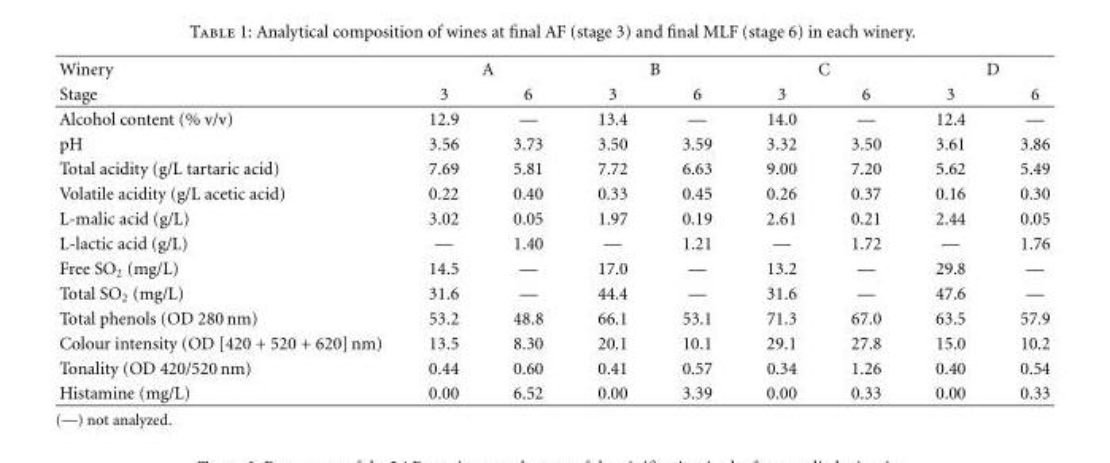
<table><thead><tr><td rowspan="2">Winery Stage</td><td colspan="2">A</td><td colspan="2">B</td><td colspan="2">C</td><td colspan="2">D</td></tr><tr><td>3</td><td>6</td><td>3</td><td>6</td><td>3</td><td>6</td><td>3</td><td>6</td></tr></thead><tbody><tr><td>Alcohol content (% v/v)</td><td>12.9</td><td>—</td><td>13.4</td><td>—</td><td>14.0</td><td>—</td><td>12.4</td><td>—</td></tr><tr><td>pH</td><td>3.56</td><td>3.73</td><td>3.50</td><td>3.59</td><td>3.32</td><td>3.50</td><td>3.61</td><td>3.86</td></tr><tr><td>Total acidity (g/L tartaric acid)</td><td>7.69</td><td>5.81</td><td>7.72</td><td>6.63</td><td>9.00</td><td>7.20</td><td>5.62</td><td>5.49</td></tr><tr><td>Volatile acidity (g/L acetic acid)</td><td>0.22</td><td>0.40</td><td>0.33</td><td>0.45</td><td>0.26</td><td>0.37</td><td>0.16</td><td>0.30</td></tr><tr><td>L-malic acid (g/L)</td><td>3.02</td><td>0.05</td><td>1.97</td><td>0.19</td><td>2.61</td><td>0.21</td><td>2.44</td><td>0.05</td></tr><tr><td>L-lactic acid (g/L)</td><td>—</td><td>1.40</td><td>—</td><td>1.21</td><td>—</td><td>1.72</td><td>—</td><td>1.76</td></tr><tr><td>Free SO<sub>2</sub> (mg/L)</td><td>14.5</td><td>—</td><td>17.0</td><td>—</td><td>13.2</td><td>—</td><td>29.8</td><td>—</td></tr><tr><td>Total SO<sub>2</sub> (mg/L)</td><td>31.6</td><td>—</td><td>44.4</td><td>—</td><td>31.6</td><td>—</td><td>47.6</td><td>—</td></tr><tr><td>Total phenols (OD 280 nm)</td><td>53.2</td><td>48.8</td><td>66.1</td><td>53.1</td><td>71.3</td><td>67.0</td><td>63.5</td><td>57.9</td></tr><tr><td>Colour intensity (OD [420 + 520 + 620] nm)</td><td>13.5</td><td>8.30</td><td>20.1</td><td>10.1</td><td>29.1</td><td>27.8</td><td>15.0</td><td>10.2</td></tr><tr><td>Tonality (OD 420/520 nm)</td><td>0.44</td><td>0.60</td><td>0.41</td><td>0.57</td><td>0.34</td><td>1.26</td><td>0.40</td><td>0.54</td></tr><tr><td>Histamine (mg/L)</td><td>0.00</td><td>6.52</td><td>0.00</td><td>3.39</td><td>0.00</td><td>0.33</td><td>0.00</td><td>0.33</td></tr></tbody></table>